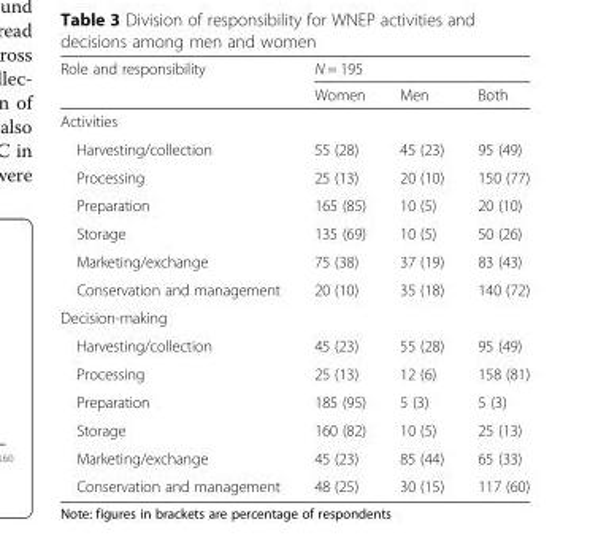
<table><thead><tr><td rowspan="2">Role and responsibility</td><td colspan="3">N = 195</td></tr><tr><td>Women</td><td>Men</td><td>Both</td></tr></thead><tbody><tr><td colspan="4">Activities</td></tr><tr><td>Harvesting/collection</td><td>55 (28)</td><td>45 (23)</td><td>95 (49)</td></tr><tr><td>Processing</td><td>25 (13)</td><td>20 (10)</td><td>150 (77)</td></tr><tr><td>Preparation</td><td>165 (85)</td><td>10 (5)</td><td>20 (10)</td></tr><tr><td>Storage</td><td>135 (69)</td><td>10 (5)</td><td>50 (26)</td></tr><tr><td>Marketing/exchange</td><td>75 (38)</td><td>37 (19)</td><td>83 (43)</td></tr><tr><td>Conservation and management</td><td>20 (10)</td><td>35 (18)</td><td>140 (72)</td></tr><tr><td colspan="4">Decision-making</td></tr><tr><td>Harvesting/collection</td><td>45 (23)</td><td>55 (28)</td><td>95 (49)</td></tr><tr><td>Processing</td><td>25 (13)</td><td>12 (6)</td><td>158 (81)</td></tr><tr><td>Preparation</td><td>185 (95)</td><td>5 (3)</td><td>5 (3)</td></tr><tr><td>Storage</td><td>160 (82)</td><td>10 (5)</td><td>25 (13)</td></tr><tr><td>Marketing/exchange</td><td>45 (23)</td><td>85 (44)</td><td>65 (33)</td></tr><tr><td>Conservation and management</td><td>48 (25)</td><td>30 (15)</td><td>117 (60)</td></tr></tbody></table>